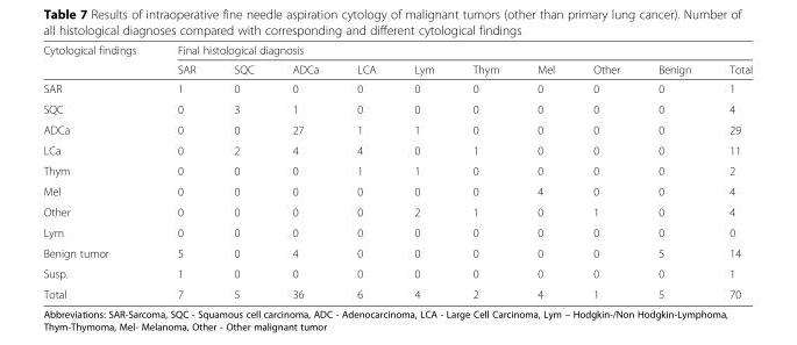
<table><thead><tr><td rowspan="2">Cytological findings</td><td colspan="10">Final histological diagnosis</td></tr><tr><td>SAR</td><td>SQC</td><td>ADCa</td><td>LCA</td><td>Lym</td><td>Thym</td><td>Mel</td><td>Other</td><td>Benign</td><td>Total</td></tr></thead><tbody><tr><td>SAR</td><td>1</td><td>0</td><td>0</td><td>0</td><td>0</td><td>0</td><td>0</td><td>0</td><td>0</td><td>1</td></tr><tr><td>SQC</td><td>0</td><td>3</td><td>1</td><td>0</td><td>0</td><td>0</td><td>0</td><td>0</td><td>0</td><td>4</td></tr><tr><td>ADCa</td><td>0</td><td>0</td><td>27</td><td>1</td><td>1</td><td>0</td><td>0</td><td>0</td><td>0</td><td>29</td></tr><tr><td>LCa</td><td>0</td><td>2</td><td>4</td><td>4</td><td>0</td><td>1</td><td>0</td><td>0</td><td>0</td><td>11</td></tr><tr><td>Thym</td><td>0</td><td>0</td><td>0</td><td>1</td><td>1</td><td>0</td><td>0</td><td>0</td><td>0</td><td>2</td></tr><tr><td>Mel</td><td>0</td><td>0</td><td>0</td><td>0</td><td>0</td><td>0</td><td>4</td><td>0</td><td>0</td><td>4</td></tr><tr><td>Other</td><td>0</td><td>0</td><td>0</td><td>0</td><td>2</td><td>1</td><td>0</td><td>1</td><td>0</td><td>4</td></tr><tr><td>Lym</td><td>0</td><td>0</td><td>0</td><td>0</td><td>0</td><td>0</td><td>0</td><td>0</td><td>0</td><td>0</td></tr><tr><td>Benign tumor</td><td>5</td><td>0</td><td>4</td><td>0</td><td>0</td><td>0</td><td>0</td><td>0</td><td>5</td><td>14</td></tr><tr><td>Susp.</td><td>1</td><td>0</td><td>0</td><td>0</td><td>0</td><td>0</td><td>0</td><td>0</td><td>0</td><td>1</td></tr><tr><td>Total</td><td>7</td><td>5</td><td>36</td><td>6</td><td>4</td><td>2</td><td>4</td><td>1</td><td>5</td><td>70</td></tr></tbody></table>